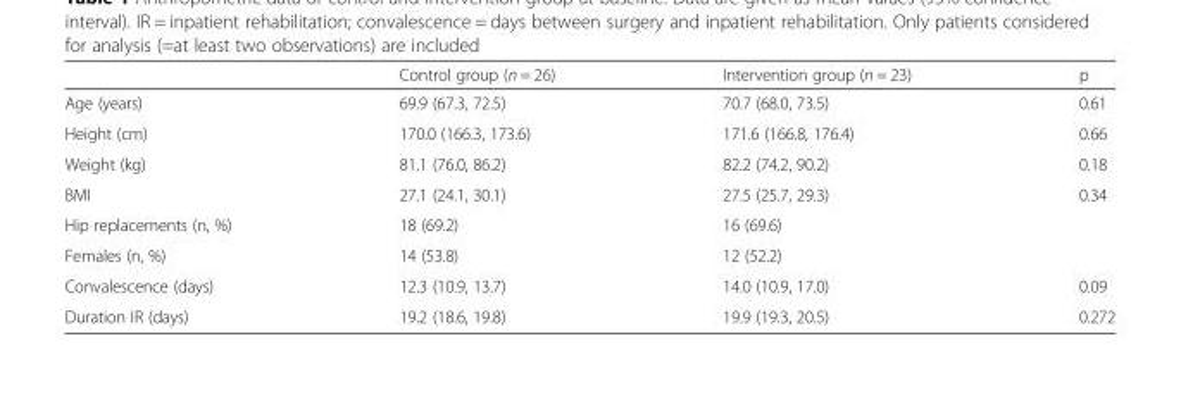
<table><thead><tr><td></td><td>Control group (n = 26)</td><td>Intervention group (n = 23)</td><td>p</td></tr></thead><tbody><tr><td>Age (years)</td><td>69.9 (67.3, 72.5)</td><td>70.7 (68.0, 73.5)</td><td>0.61</td></tr><tr><td>Height (cm)</td><td>170.0 (166.3, 173.6)</td><td>171.6 (166.8, 176.4)</td><td>0.66</td></tr><tr><td>Weight (kg)</td><td>81.1 (76.0, 86.2)</td><td>82.2 (74.2, 90.2)</td><td>0.18</td></tr><tr><td>BMI</td><td>27.1 (24.1, 30.1)</td><td>27.5 (25.7, 29.3)</td><td>0.34</td></tr><tr><td>Hip replacements (n, %)</td><td>18 (69.2)</td><td>16 (69.6)</td><td rowspan="2"></td></tr><tr><td>Females (n, %)</td><td>14 (53.8)</td><td>12 (52.2)</td></tr><tr><td>Convalescence (days)</td><td>12.3 (10.9, 13.7)</td><td>14.0 (10.9, 17.0)</td><td>0.09</td></tr><tr><td>Duration IR (days)</td><td>19.2 (18.6, 19.8)</td><td>19.9 (19.3, 20.5)</td><td>0.272</td></tr></tbody></table>